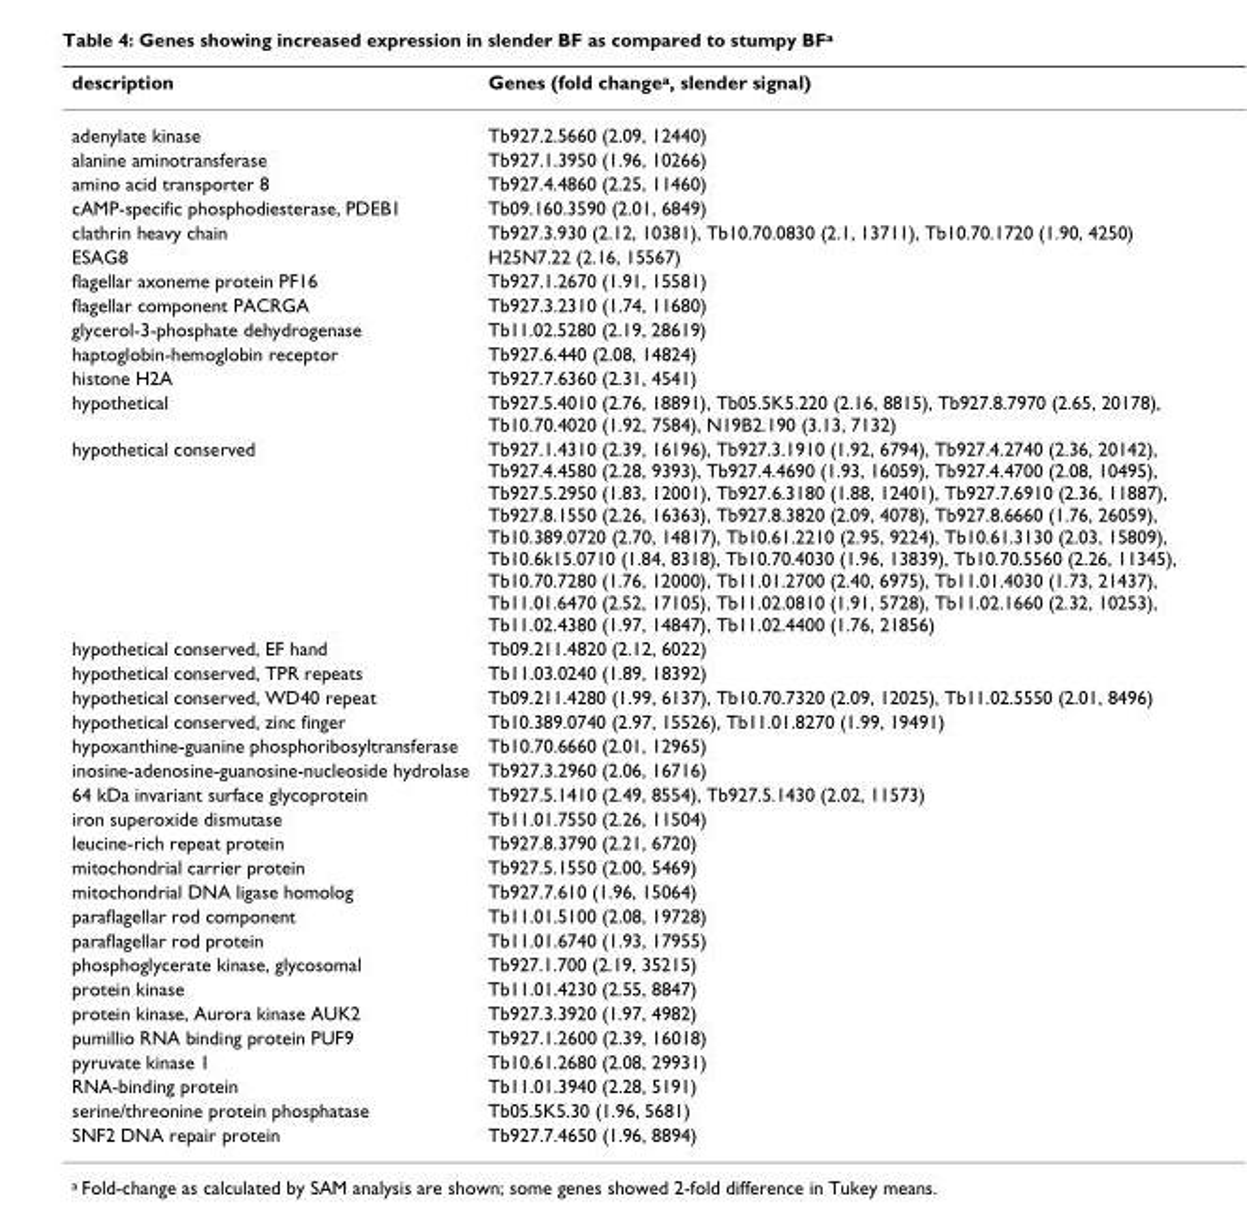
<table><thead><tr><td>description</td><td>Genes (fold change<sup>a</sup>, slender signal)</td></tr></thead><tbody><tr><td>adenylate kinase</td><td>Tb927.2.5660 (2.09, 12440)</td></tr><tr><td>alanine aminotransferase</td><td>Tb927.1.3950 (1.96, 10266)</td></tr><tr><td>amino acid transporter 8</td><td>Tb927.4.4860 (2.25, 11460)</td></tr><tr><td>cAMP-specific phosphodiesterase, PDEB1</td><td>Tb09.160.3590 (2.01, 6849)</td></tr><tr><td>clathrin heavy chain</td><td>Tb927.3.930 (2.12, 10381), Tb10.70.0830 (2.1, 13711), Tb10.70.1720 (1.90, 4250)</td></tr><tr><td>ESAG8</td><td>H25N7.22 (2.16, 15567)</td></tr><tr><td>flagellar axoneme protein PF16</td><td>Tb927.1.2670 (1.91, 15581)</td></tr><tr><td>flagellar component PACRGA</td><td>Tb927.3.2310 (1.74, 11680)</td></tr><tr><td>glycerol-3-phosphate dehydrogenase</td><td>Tb11.02.5280 (2.19, 28619)</td></tr><tr><td>haptoglobin-hemoglobin receptor</td><td>Tb927.6.440 (2.08, 14824)</td></tr><tr><td>histone H2A</td><td>Tb927.7.6360 (2.31, 4541)</td></tr><tr><td>hypothetical</td><td>Tb927.5.4010 (2.76, 18891), Tb05.5K5.220 (2.16, 8815), Tb927.8.7970 (2.65, 20178), Tb10.70.4020 (1.92, 7584), N19B2.190 (3.13, 7132)</td></tr><tr><td>hypothetical conserved</td><td>Tb927.1.4310 (2.39, 16196), Tb927.3.1910 (1.92, 6794), Tb927.4.2740 (2.36, 20142), Tb927.4.4580 (2.28, 9393), Tb927.4.4690 (1.93, 16059), Tb927.4.4700 (2.08, 10495), Tb927.5.2950 (1.83, 12001), Tb927.6.3180 (1.88, 12401), Tb927.7.6910 (2.36, 11887), Tb927.8.1550 (2.26, 16363), Tb927.8.3820 (2.09, 4078), Tb927.8.6660 (1.76, 26059), Tb10.389.0720 (2.70, 14817), Tb10.61.2210 (2.95, 9224), Tb10.61.3130 (2.03, 15809), Tb10.6k15.0710 (1.84, 8318), Tb10.70.4030 (1.96, 13839), Tb10.70.5560 (2.26, 11345), Tb10.70.7280 (1.76, 12000), Tb11.01.2700 (2.40, 6975), Tb11.01.4030 (1.73, 21437), Tb11.01.6470 (2.52, 17105), Tb11.02.0810 (1.91, 5728), Tb11.02.1660 (2.32, 10253), Tb11.02.4380 (1.97, 14847), Tb11.02.4400 (1.76, 21856)</td></tr><tr><td>hypothetical conserved, EF hand</td><td>Tb09.211.4820 (2.12, 6022)</td></tr><tr><td>hypothetical conserved, TPR repeats</td><td>Tb11.03.0240 (1.89, 18392)</td></tr><tr><td>hypothetical conserved, WD40 repeat</td><td>Tb09.211.4280 (1.99, 6137), Tb10.70.7320 (2.09, 12025), Tb11.02.5550 (2.01, 8496)</td></tr><tr><td>hypothetical conserved, zinc finger</td><td>Tb10.389.0740 (2.97, 15526), Tb11.01.8270 (1.99, 19491)</td></tr><tr><td>hypoxanthine-guanine phosphoribosyltransferase</td><td>Tb10.70.6660 (2.01, 12965)</td></tr><tr><td>inosine-adenosine-guanosine-nucleoside hydrolase</td><td>Tb927.3.2960 (2.06, 16716)</td></tr><tr><td>64 kDa invariant surface glycoprotein</td><td>Tb927.5.1410 (2.49, 8554), Tb927.5.1430 (2.02, 11573)</td></tr><tr><td>iron superoxide dismutase</td><td>Tb11.01.7550 (2.26, 11504)</td></tr><tr><td>leucine-rich repeat protein</td><td>Tb927.8.3790 (2.21, 6720)</td></tr><tr><td>mitochondrial carrier protein</td><td>Tb927.5.1550 (2.00, 5469)</td></tr><tr><td>mitochondrial DNA ligase homolog</td><td>Tb927.7.610 (1.96, 15064)</td></tr><tr><td>paraflagellar rod component</td><td>Tb11.01.5100 (2.08, 19728)</td></tr><tr><td>paraflagellar rod protein</td><td>Tb11.01.6740 (1.93, 17955)</td></tr><tr><td>phosphoglycerate kinase, glycosomal</td><td>Tb927.1.700 (2.19, 35215)</td></tr><tr><td>protein kinase</td><td>Tb11.01.4230 (2.55, 8847)</td></tr><tr><td>protein kinase, Aurora kinase AUK2</td><td>Tb927.3.3920 (1.97, 4982)</td></tr><tr><td>pumillio RNA binding protein PUF9</td><td>Tb927.1.2600 (2.39, 16018)</td></tr><tr><td>pyruvate kinase 1</td><td>Tb10.61.2680 (2.08, 29931)</td></tr><tr><td>RNA-binding protein</td><td>Tb11.01.3940 (2.28, 5191)</td></tr><tr><td>serine/threonine protein phosphatase</td><td>Tb05.5K5.30 (1.96, 5681)</td></tr><tr><td>SNF2 DNA repair protein</td><td>Tb927.7.4650 (1.96, 8894)</td></tr></tbody></table>